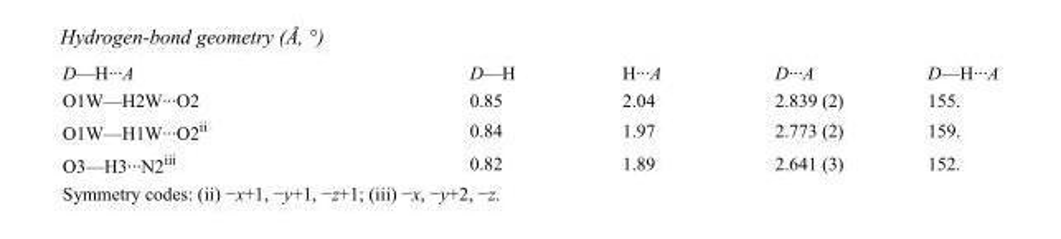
<table><tbody><tr><td>D—H···A</td><td>D—H</td><td>H···A</td><td>D···A</td><td>D—H···A</td></tr><tr><td>O1W—H2W···O2</td><td>0.85</td><td>2.04</td><td>2.839 (2)</td><td>155.</td></tr><tr><td>O1W—H1W···O2<sup>ii</sup></td><td>0.84</td><td>1.97</td><td>2.773 (2)</td><td>159.</td></tr><tr><td>O3—H3···N2<sup>iii</sup></td><td>0.82</td><td>1.89</td><td>2.641 (3)</td><td>152.</td></tr></tbody></table>